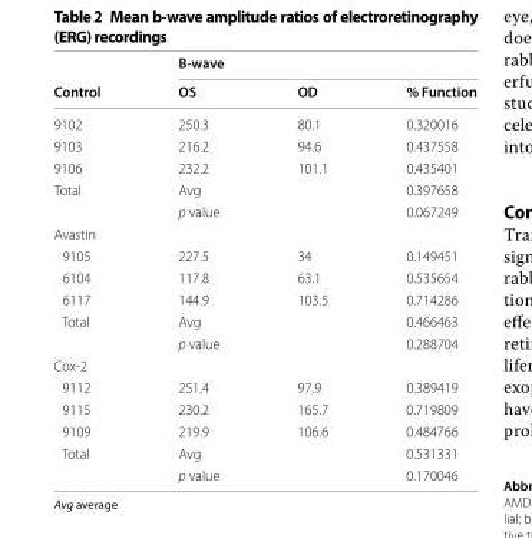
<table><thead><tr><td rowspan="2">Control</td><td colspan="3">B-wave</td></tr><tr><td>OS</td><td>OD</td><td>% Function</td></tr></thead><tbody><tr><td>9102</td><td>250.3</td><td>80.1</td><td>0.320016</td></tr><tr><td>9103</td><td>216.2</td><td>94.6</td><td>0.437558</td></tr><tr><td>9106</td><td>232.2</td><td>101.1</td><td>0.435401</td></tr><tr><td rowspan="2">Total</td><td>Avg</td><td></td><td>0.397658</td></tr><tr><td>p value</td><td></td><td>0.067249</td></tr><tr><td colspan="4">Avastin</td></tr><tr><td>9105</td><td>227.5</td><td>34</td><td>0.149451</td></tr><tr><td>6104</td><td>117.8</td><td>63.1</td><td>0.535654</td></tr><tr><td>6117</td><td>144.9</td><td>103.5</td><td>0.714286</td></tr><tr><td rowspan="2">Total</td><td>Avg</td><td></td><td>0.466463</td></tr><tr><td>p value</td><td></td><td>0.288704</td></tr><tr><td colspan="4">Cox-2</td></tr><tr><td>9112</td><td>251.4</td><td>97.9</td><td>0.389419</td></tr><tr><td>9115</td><td>230.2</td><td>165.7</td><td>0.719809</td></tr><tr><td>9109</td><td>219.9</td><td>106.6</td><td>0.484766</td></tr><tr><td rowspan="2">Total</td><td>Avg</td><td></td><td>0.531331</td></tr><tr><td>p value</td><td></td><td>0.170046</td></tr></tbody></table>